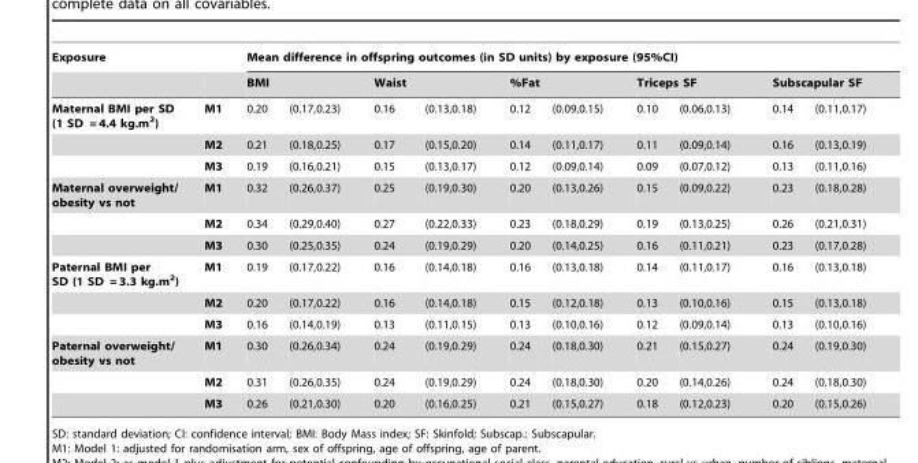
<table><thead><tr><td rowspan="3">Exposure Maternal BMI per SD (1 SD = 4.4 kg.m<sup>2</sup>)</td><td rowspan="3">M1</td><td colspan="10">Mean difference in offspring outcomes (in SD units) by exposure (95%CI)</td></tr><tr><td colspan="2">BMI</td><td colspan="2">Waist</td><td colspan="2">%Fat</td><td colspan="2">Triceps SF</td><td colspan="2">Subscapular SF</td></tr><tr><td>0.20</td><td>(0.17,0.23)</td><td>0.16</td><td>(0.13,0.18)</td><td>0.12</td><td>(0.09,0.15)</td><td>0.10</td><td>(0.06,0.13)</td><td>0.14</td><td>(0.11,0.17)</td></tr></thead><tbody><tr><td></td><td>M2</td><td>0.21</td><td>(0.18,0.25)</td><td>0.17</td><td>(0.15,0.20)</td><td>0.14</td><td>(0.11,0.17)</td><td>0.11</td><td>(0.09,0.14)</td><td>0.16</td><td>(0.13,0.19)</td></tr><tr><td></td><td>M3</td><td>0.19</td><td>(0.16,0.21)</td><td>0.15</td><td>(0.13,0.17)</td><td>0.12</td><td>(0.09,0.14)</td><td>0.09</td><td>(0.07,0.12)</td><td>0.13</td><td>(0.11,0.16)</td></tr><tr><td rowspan="3">Maternal overweight/ obesity vs not</td><td>M1</td><td>0.32</td><td>(0.26,0.37)</td><td>0.25</td><td>(0.19,0.30)</td><td>0.20</td><td>(0.13,0.26)</td><td>0.15</td><td>(0.09,0.22)</td><td>0.23</td><td>(0.18,0.28)</td></tr><tr><td>M2</td><td>0.34</td><td>(0.29,0.40)</td><td>0.27</td><td>(0.22,0.33)</td><td>0.23</td><td>(0.18,0.29)</td><td>0.19</td><td>(0.13,0.25)</td><td>0.26</td><td>(0.21,0.31)</td></tr><tr><td>M3</td><td>0.30</td><td>(0.25,0.35)</td><td>0.24</td><td>(0.19,0.29)</td><td>0.20</td><td>(0.14,0.25)</td><td>0.16</td><td>(0.11,0.21)</td><td>0.23</td><td>(0.17,0.28)</td></tr><tr><td rowspan="3">Paternal BMI per SD (1 SD = 3.3 kg.m<sup>2</sup>)</td><td>M1</td><td>0.19</td><td>(0.17,0.22)</td><td>0.16</td><td>(0.14,0.18)</td><td>0.16</td><td>(0.13,0.18)</td><td>0.14</td><td>(0.11,0.17)</td><td>0.16</td><td>(0.13,0.18)</td></tr><tr><td>M2</td><td>0.20</td><td>(0.17,0.22)</td><td>0.16</td><td>(0.14,0.18)</td><td>0.15</td><td>(0.12,0.18)</td><td>0.13</td><td>(0.10,0.16)</td><td>0.15</td><td>(0.13,0.18)</td></tr><tr><td>M3</td><td>0.16</td><td>(0.14,0.19)</td><td>0.13</td><td>(0.11,0.15)</td><td>0.13</td><td>(0.10,0.16)</td><td>0.12</td><td>(0.09,0.14)</td><td>0.13</td><td>(0.10,0.16)</td></tr><tr><td rowspan="3">Paternal overweight/ obesity vs not</td><td>M1</td><td>0.30</td><td>(0.26,0.34)</td><td>0.24</td><td>(0.19,0.29)</td><td>0.24</td><td>(0.18,0.30)</td><td>0.21</td><td>(0.15,0.27)</td><td>0.24</td><td>(0.19,0.30)</td></tr><tr><td>M2</td><td>0.31</td><td>(0.26,0.35)</td><td>0.24</td><td>(0.19,0.29)</td><td>0.24</td><td>(0.18,0.30)</td><td>0.20</td><td>(0.14,0.26)</td><td>0.24</td><td>(0.18,0.30)</td></tr><tr><td>M3</td><td>0.26</td><td>(0.21,0.30)</td><td>0.20</td><td>(0.16,0.25)</td><td>0.21</td><td>(0.15,0.27)</td><td>0.18</td><td>(0.12,0.23)</td><td>0.20</td><td>(0.15,0.26)</td></tr></tbody></table>